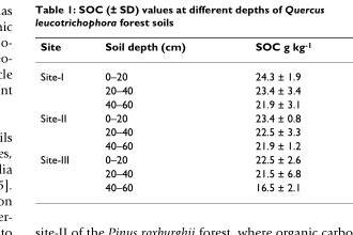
<table><thead><tr><td>Site</td><td>Soil depth (cm)</td><td>SOC g kg<sup>-1</sup></td></tr></thead><tbody><tr><td rowspan="3">Site-I</td><td>0–20</td><td>24.3 ± 1.9</td></tr><tr><td>20–40</td><td>23.4 ± 3.4</td></tr><tr><td>40–60</td><td>21.9 ± 3.1</td></tr><tr><td rowspan="3">Site-II</td><td>0–20</td><td>23.4 ± 0.8</td></tr><tr><td>20–40</td><td>22.5 ± 3.3</td></tr><tr><td>40–60</td><td>21.9 ± 1.2</td></tr><tr><td rowspan="3">Site-III</td><td>0–20</td><td>22.5 ± 2.6</td></tr><tr><td>20–40</td><td>21.5 ± 6.8</td></tr><tr><td>40–60</td><td>16.5 ± 2.1</td></tr></tbody></table>